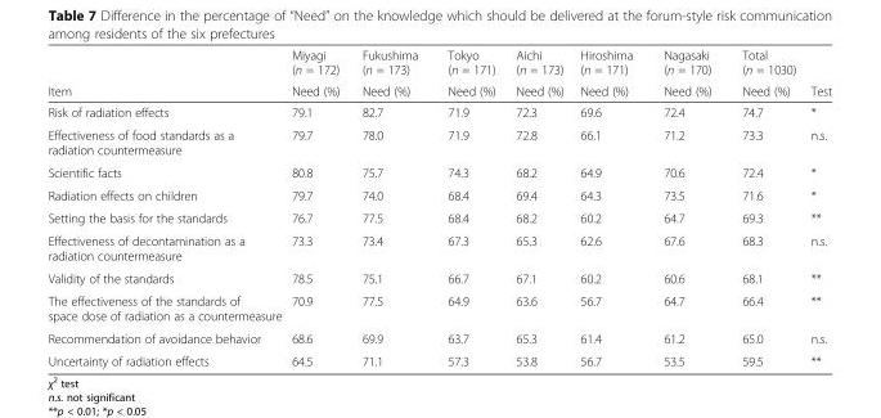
<table><thead><tr><td rowspan="2">Item</td><td rowspan="2">Miyagi (n = 172) Need (%)</td><td rowspan="2">Fukushima (n = 173) Need (%)</td><td rowspan="2">Tokyo (n = 171) Need (%)</td><td rowspan="2">Aichi (n = 173) Need (%)</td><td rowspan="2">Hiroshima (n = 171) Need (%)</td><td rowspan="2">Nagasaki (n = 170) Need (%)</td><td rowspan="2">Total (n = 1030) Need (%)</td><td rowspan="2">Test</td></tr><tr></tr></thead><tbody><tr><td>Risk of radiation effects</td><td>79.1</td><td>82.7</td><td>71.9</td><td>72.3</td><td>69.6</td><td>72.4</td><td>74.7</td><td>*</td></tr><tr><td>Effectiveness of food standards as a radiation countermeasure</td><td>79.7</td><td>78.0</td><td>71.9</td><td>72.8</td><td>66.1</td><td>71.2</td><td>73.3</td><td>n.s.</td></tr><tr><td>Scientific facts</td><td>80.8</td><td>75.7</td><td>74.3</td><td>68.2</td><td>64.9</td><td>70.6</td><td>72.4</td><td>*</td></tr><tr><td>Radiation effects on children</td><td>79.7</td><td>74.0</td><td>68.4</td><td>69.4</td><td>64.3</td><td>73.5</td><td>71.6</td><td>*</td></tr><tr><td>Setting the basis for the standards</td><td>76.7</td><td>77.5</td><td>68.4</td><td>68.2</td><td>60.2</td><td>64.7</td><td>69.3</td><td>**</td></tr><tr><td>Effectiveness of decontamination as a radiation countermeasure</td><td>73.3</td><td>73.4</td><td>67.3</td><td>65.3</td><td>62.6</td><td>67.6</td><td>68.3</td><td>n.s.</td></tr><tr><td>Validity of the standards</td><td>78.5</td><td>75.1</td><td>66.7</td><td>67.1</td><td>60.2</td><td>60.6</td><td>68.1</td><td>**</td></tr><tr><td>The effectiveness of the standards of space dose of radiation as a countermeasure</td><td>70.9</td><td>77.5</td><td>64.9</td><td>63.6</td><td>56.7</td><td>64.7</td><td>66.4</td><td>**</td></tr><tr><td>Recommendation of avoidance behavior</td><td>68.6</td><td>69.9</td><td>63.7</td><td>65.3</td><td>61.4</td><td>61.2</td><td>65.0</td><td>n.s.</td></tr><tr><td>Uncertainty of radiation effects</td><td>64.5</td><td>71.1</td><td>57.3</td><td>53.8</td><td>56.7</td><td>53.5</td><td>59.5</td><td>**</td></tr></tbody></table>